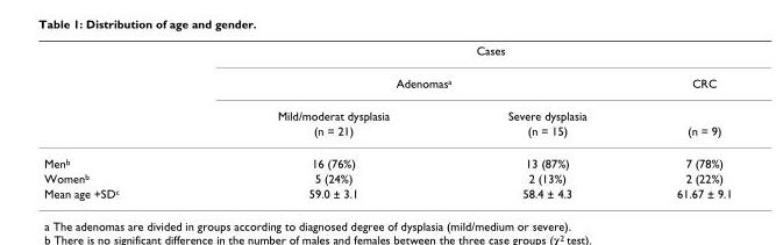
<table><thead><tr><td rowspan="4"></td><td colspan="3">Cases</td></tr><tr><td colspan="2">Adenomasa</td><td rowspan="3">CRC (n = 9)</td></tr><tr><td rowspan="2">Mild/moderat dysplasia (n = 21)</td><td rowspan="2">Severe dysplasia (n = 15)</td></tr><tr></tr></thead><tbody><tr><td>Menb</td><td>16 (76%)</td><td>13 (87%)</td><td>7 (78%)</td></tr><tr><td>Womenb</td><td>5 (24%)</td><td>2 (13%)</td><td>2 (22%)</td></tr><tr><td>Mean age +SDc</td><td>59.0 ± 3.1</td><td>58.4 ± 4.3</td><td>61.67 ± 9.1</td></tr></tbody></table>